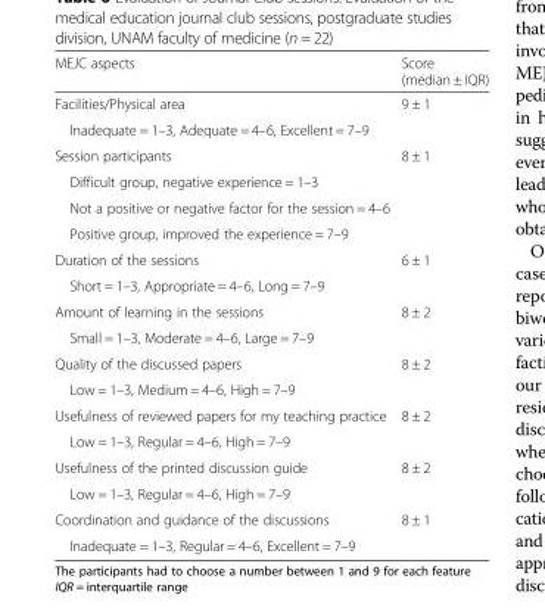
<table><thead><tr><td>MEJC aspects</td><td>Score (median ± IQR)</td></tr></thead><tbody><tr><td>Facilities/Physical area</td><td rowspan="2">9 ± 1</td></tr><tr><td>Inadequate = 1–3, Adequate = 4–6, Excellent = 7–9</td></tr><tr><td>Session participants</td><td rowspan="4">8 ± 1</td></tr><tr><td>Difficult group, negative experience = 1–3</td></tr><tr><td>Not a positive or negative factor for the session = 4–6</td></tr><tr><td>Positive group, improved the experience = 7–9</td></tr><tr><td>Duration of the sessions</td><td rowspan="2">6 ± 1</td></tr><tr><td>Short = 1–3, Appropriate = 4–6, Long = 7–9</td></tr><tr><td>Amount of learning in the sessions</td><td rowspan="2">8 ± 2</td></tr><tr><td>Small = 1–3, Moderate = 4–6, Large = 7–9</td></tr><tr><td>Quality of the discussed papers</td><td rowspan="2">8 ± 2</td></tr><tr><td>Low = 1–3, Medium = 4–6, High = 7–9</td></tr><tr><td>Usefulness of reviewed papers for my teaching practice</td><td rowspan="2">8 ± 2</td></tr><tr><td>Low = 1–3, Regular = 4–6, High = 7–9</td></tr><tr><td>Usefulness of the printed discussion guide</td><td rowspan="2">8 ± 2</td></tr><tr><td>Low = 1–3, Regular = 4–6, High = 7–9</td></tr><tr><td>Coordination and guidance of the discussions</td><td rowspan="2">8 ± 1</td></tr><tr><td>Inadequate = 1–3, Regular = 4–6, Excellent = 7–9</td></tr></tbody></table>